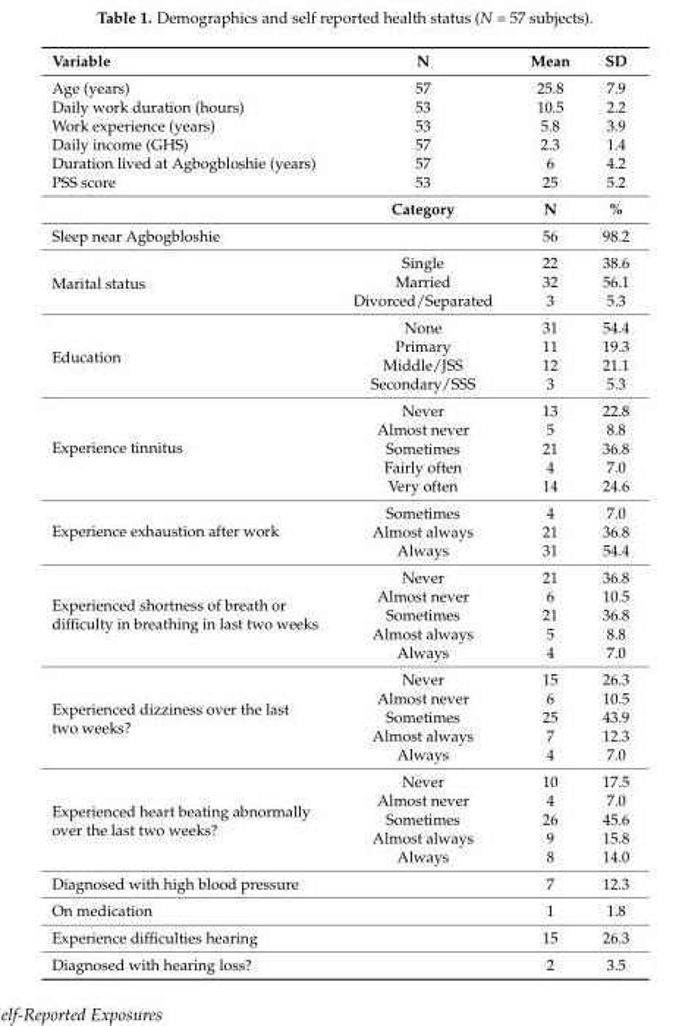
<table><thead><tr><td>Variable</td><td>N</td><td>Mean</td><td>SD</td></tr></thead><tbody><tr><td>Age (years)</td><td>57</td><td>25.8</td><td>7.9</td></tr><tr><td>Daily work duration (hours)</td><td>53</td><td>10.5</td><td>2.2</td></tr><tr><td>Work experience (years)</td><td>53</td><td>5.8</td><td>3.9</td></tr><tr><td>Daily income (GHS)</td><td>57</td><td>2.3</td><td>1.4</td></tr><tr><td>Duration lived at Agbogbloshie (years)</td><td>57</td><td>6</td><td>4.2</td></tr><tr><td rowspan="2">PSS score</td><td>53</td><td>25</td><td>5.2</td></tr><tr><td>Category</td><td>N</td><td>%</td></tr><tr><td>Sleep near Agbogbloshie</td><td></td><td>56</td><td>98.2</td></tr><tr><td rowspan="3">Marital status</td><td>Single</td><td>22</td><td>38.6</td></tr><tr><td>Married</td><td>32</td><td>56.1</td></tr><tr><td>Divorced/Separated</td><td>3</td><td>5.3</td></tr><tr><td rowspan="4">Education</td><td>None</td><td>31</td><td>54.4</td></tr><tr><td>Primary</td><td>11</td><td>19.3</td></tr><tr><td>Middle/JSS</td><td>12</td><td>21.1</td></tr><tr><td>Secondary/SSS</td><td>3</td><td>5.3</td></tr><tr><td rowspan="5">Experience tinnitus</td><td>Never</td><td>13</td><td>22.8</td></tr><tr><td>Almost never</td><td>5</td><td>8.8</td></tr><tr><td>Sometimes</td><td>21</td><td>36.8</td></tr><tr><td>Fairly often</td><td>4</td><td>7.0</td></tr><tr><td>Very often</td><td>14</td><td>24.6</td></tr><tr><td rowspan="3">Experience exhaustion after work</td><td>Sometimes</td><td>4</td><td>7.0</td></tr><tr><td>Almost always</td><td>21</td><td>36.8</td></tr><tr><td>Always</td><td>31</td><td>54.4</td></tr><tr><td rowspan="5">Experienced shortness of breath or difficulty in breathing in last two weeks</td><td>Never</td><td>21</td><td>36.8</td></tr><tr><td>Almost never</td><td>6</td><td>10.5</td></tr><tr><td>Sometimes</td><td>21</td><td>36.8</td></tr><tr><td>Almost always</td><td>5</td><td>8.8</td></tr><tr><td>Always</td><td>4</td><td>7.0</td></tr><tr><td rowspan="5">Experienced dizziness over the last two weeks?</td><td>Never</td><td>15</td><td>26.3</td></tr><tr><td>Almost never</td><td>6</td><td>10.5</td></tr><tr><td>Sometimes</td><td>25</td><td>43.9</td></tr><tr><td>Almost always</td><td>7</td><td>12.3</td></tr><tr><td>Always</td><td>4</td><td>7.0</td></tr><tr><td rowspan="5">Experienced heart beating abnormally over the last two weeks?</td><td>Never</td><td>10</td><td>17.5</td></tr><tr><td>Almost never</td><td>4</td><td>7.0</td></tr><tr><td>Sometimes</td><td>26</td><td>45.6</td></tr><tr><td>Almost always</td><td>9</td><td>15.8</td></tr><tr><td>Always</td><td>8</td><td>14.0</td></tr><tr><td>Diagnosed with high blood pressure</td><td></td><td>7</td><td>12.3</td></tr><tr><td>On medication</td><td></td><td>1</td><td>1.8</td></tr><tr><td>Experience difficulties hearing</td><td></td><td>15</td><td>26.3</td></tr><tr><td>Diagnosed with hearing loss?</td><td></td><td>2</td><td>3.5</td></tr></tbody></table>